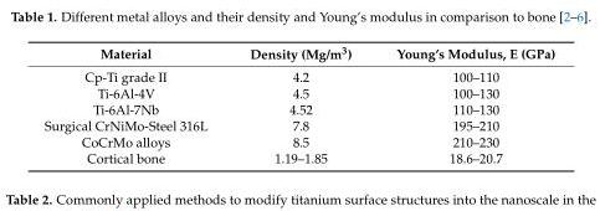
<table><thead><tr><td>Material</td><td>Density (Mg/m<sup>3</sup>)</td><td>Young’s Modulus, E (GPa)</td></tr></thead><tbody><tr><td>Cp-Ti grade II</td><td>4.2</td><td>100–110</td></tr><tr><td>Ti-6Al-4V</td><td>4.5</td><td>100–130</td></tr><tr><td>Ti-6Al-7Nb</td><td>4.52</td><td>110–130</td></tr><tr><td>Surgical CrNiMo-Steel 316L</td><td>7.8</td><td>195–210</td></tr><tr><td>CoCrMo alloys</td><td>8.5</td><td>210–230</td></tr><tr><td>Cortical bone</td><td>1.19–1.85</td><td>18.6–20.7</td></tr></tbody></table>